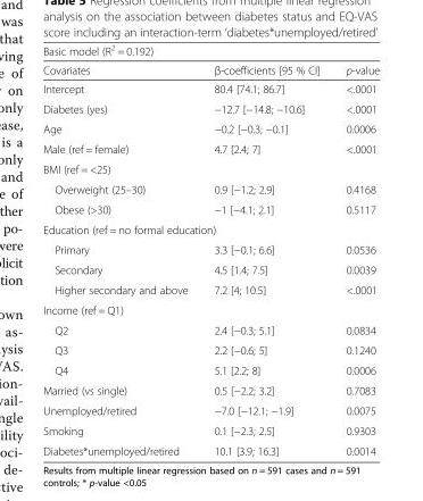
<table><thead><tr><td colspan="3">Basic model (R<sup>2</sup> = 0.192)</td></tr><tr><td>Covariates</td><td>β-coefficients [95 % CI]</td><td>p-value</td></tr></thead><tbody><tr><td>Intercept</td><td>80.4 [74.1; 86.7]</td><td>&lt;.0001</td></tr><tr><td>Diabetes (yes)</td><td>−12.7 [−14.8; −10.6]</td><td>&lt;.0001</td></tr><tr><td>Age</td><td>−0.2 [−0.3; −0.1]</td><td>0.0006</td></tr><tr><td>Male (ref = female)</td><td>4.7 [2.4; 7]</td><td>&lt;.0001</td></tr><tr><td colspan="3">BMI (ref = &lt;25)</td></tr><tr><td>Overweight (25–30)</td><td>0.9 [−1.2; 2.9]</td><td>0.4168</td></tr><tr><td>Obese (&gt;30)</td><td>−1 [−4.1; 2.1]</td><td>0.5117</td></tr><tr><td colspan="3">Education (ref = no formal education)</td></tr><tr><td>Primary</td><td>3.3 [−0.1; 6.6]</td><td>0.0536</td></tr><tr><td>Secondary</td><td>4.5 [1.4; 7.5]</td><td>0.0039</td></tr><tr><td>Higher secondary and above</td><td>7.2 [4; 10.5]</td><td>&lt;.0001</td></tr><tr><td colspan="3">Income (ref = Q1)</td></tr><tr><td>Q2</td><td>2.4 [−0.3; 5.1]</td><td>0.0834</td></tr><tr><td>Q3</td><td>2.2 [−0.6; 5]</td><td>0.1240</td></tr><tr><td>Q4</td><td>5.1 [2.2; 8]</td><td>0.0006</td></tr><tr><td>Married (vs single)</td><td>0.5 [−2.2; 3.2]</td><td>0.7083</td></tr><tr><td>Unemployed/retired</td><td>−7.0 [−12.1; −1.9]</td><td>0.0075</td></tr><tr><td>Smoking</td><td>0.1 [−2.3; 2.5]</td><td>0.9303</td></tr><tr><td>Diabetes*unemployed/retired</td><td>10.1 [3.9; 16.3]</td><td>0.0014</td></tr></tbody></table>